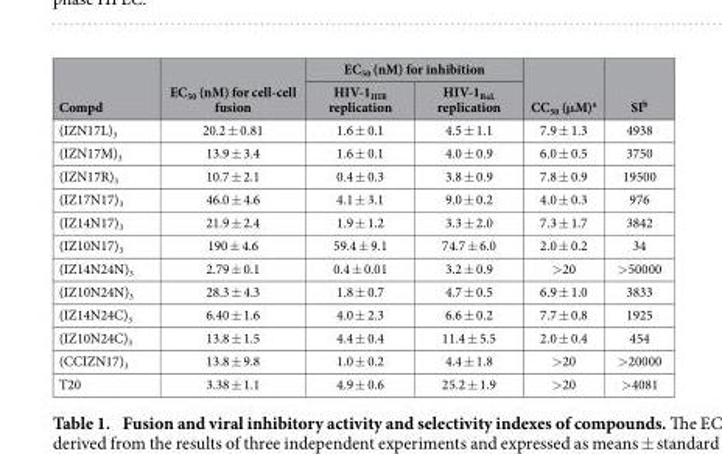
<table><thead><tr><td rowspan="2">Compd</td><td rowspan="2">EC<sub>50</sub> (nM) for cell-cell fusion</td><td colspan="2">EC<sub>50</sub> (nM) for inhibition</td><td rowspan="2">CC<sub>50</sub> (μM)<sup>a</sup></td><td rowspan="2">SI<sup>b</sup></td></tr><tr><td>HIV-1<sub>IIIB</sub> replication</td><td>HIV-1<sub>BaL</sub> replication</td></tr></thead><tbody><tr><td>(IZN17L)<sub>3</sub></td><td>20.2 ± 0.81</td><td>1.6 ± 0.1</td><td>4.5 ± 1.1</td><td>7.9 ± 1.3</td><td>4938</td></tr><tr><td>(IZN17M)<sub>3</sub></td><td>13.9 ± 3.4</td><td>1.6 ± 0.1</td><td>4.0 ± 0.9</td><td>6.0 ± 0.5</td><td>3750</td></tr><tr><td>(IZN17R)<sub>3</sub></td><td>10.7 ± 2.1</td><td>0.4 ± 0.3</td><td>3.8 ± 0.9</td><td>7.8 ± 0.9</td><td>19500</td></tr><tr><td>(IZ17N17)<sub>3</sub></td><td>46.0 ± 4.6</td><td>4.1 ± 3.1</td><td>9.0 ± 0.2</td><td>4.0 ± 0.3</td><td>976</td></tr><tr><td>(IZ14N17)<sub>3</sub></td><td>21.9 ± 2.4</td><td>1.9 ± 1.2</td><td>3.3 ± 2.0</td><td>7.3 ± 1.7</td><td>3842</td></tr><tr><td>(IZ10N17)<sub>3</sub></td><td>190 ± 4.6</td><td>59.4 ± 9.1</td><td>74.7 ± 6.0</td><td>2.0 ± 0.2</td><td>34</td></tr><tr><td>(IZ14N24N)<sub>3</sub></td><td>2.79 ± 0.1</td><td>0.4 ± 0.01</td><td>3.2 ± 0.9</td><td>&gt; 20</td><td>&gt; 50000</td></tr><tr><td>(IZ10N24N)<sub>3</sub></td><td>28.3 ± 4.3</td><td>1.8 ± 0.7</td><td>4.7 ± 0.5</td><td>6.9 ± 1.0</td><td>3833</td></tr><tr><td>(IZ14N24C)<sub>3</sub></td><td>6.40 ± 1.6</td><td>4.0 ± 2.3</td><td>6.6 ± 0.2</td><td>7.7 ± 0.8</td><td>1925</td></tr><tr><td>(IZ10N24C)<sub>3</sub></td><td>13.8 ± 1.5</td><td>4.4 ± 0.4</td><td>11.4 ± 5.5</td><td>2.0 ± 0.4</td><td>454</td></tr><tr><td>(CCIZN17)<sub>3</sub></td><td>13.8 ± 9.8</td><td>1.0 ± 0.2</td><td>4.4 ± 1.8</td><td>&gt; 20</td><td>&gt; 20000</td></tr><tr><td>T20</td><td>3.38 ± 1.1</td><td>4.9 ± 0.6</td><td>25.2 ± 1.9</td><td>&gt; 20</td><td>&gt; 4081</td></tr></tbody></table>